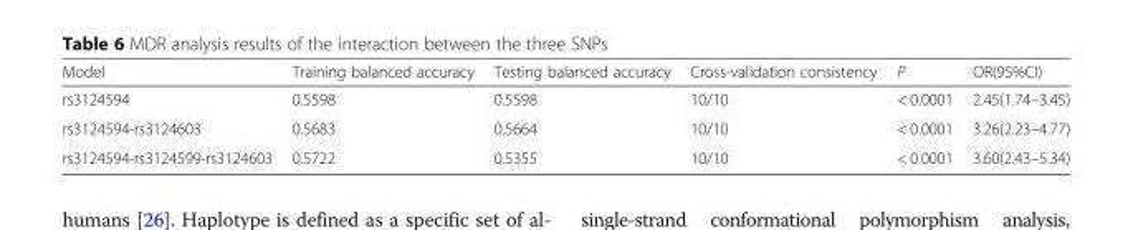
<table><thead><tr><td>Model</td><td>Training balanced accuracy</td><td>Testing balanced accuracy</td><td>Cross-validation consistency</td><td>P</td><td>OR(95%CI)</td></tr></thead><tbody><tr><td>rs3124594</td><td>0.5598</td><td>0.5598</td><td>10/10</td><td>&lt; 0.0001</td><td>2.45(1.74–3.45)</td></tr><tr><td>rs3124594-rs3124603</td><td>0.5683</td><td>0.5664</td><td>10/10</td><td>&lt; 0.0001</td><td>3.26(2.23–4.77)</td></tr><tr><td>rs3124594-rs3124599-rs3124603</td><td>0.5722</td><td>0.5355</td><td>10/10</td><td>&lt; 0.0001</td><td>3.60(2.43–5.34)</td></tr></tbody></table>